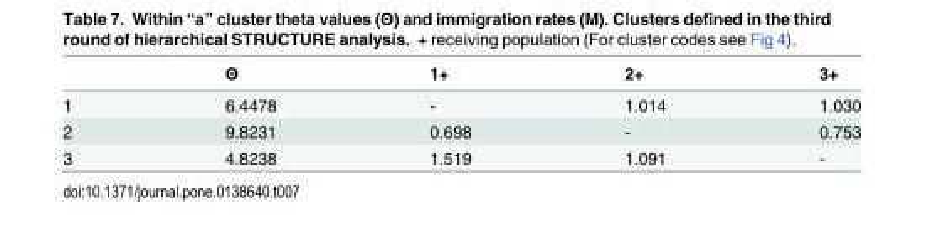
<table><thead><tr><td></td><td>Θ</td><td>1+</td><td>2+</td><td>3+</td></tr></thead><tbody><tr><td>1</td><td>6.4478</td><td>-</td><td>1.014</td><td>1.030</td></tr><tr><td>2</td><td>9.8231</td><td>0.698</td><td>-</td><td>0.753</td></tr><tr><td>3</td><td>4.8238</td><td>1.519</td><td>1.091</td><td>-</td></tr></tbody></table>